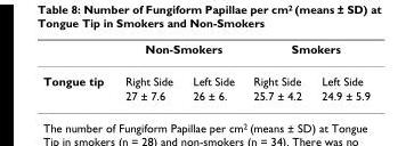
<table><thead><tr><td rowspan="2">Tongue tip</td><td colspan="2">Non-Smokers</td><td colspan="2">Smokers</td></tr><tr><td>Right Side</td><td>Left Side</td><td>Right Side</td><td>Left Side</td></tr></thead><tbody><tr><td></td><td>27 ± 7.6</td><td>26 ± 6.</td><td>25.7 ± 4.2</td><td>24.9 ± 5.9</td></tr></tbody></table>